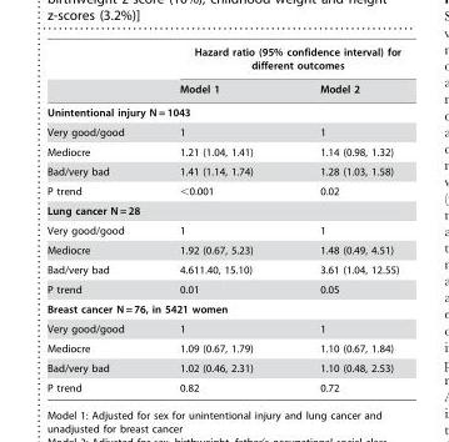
<table><thead><tr><td rowspan="2"></td><td colspan="2">Hazard ratio (95% confidence interval) for different outcomes</td></tr><tr><td>Model 1</td><td>Model 2</td></tr></thead><tbody><tr><td colspan="3">Unintentional injury N = 1043</td></tr><tr><td>Very good/good</td><td>1</td><td>1</td></tr><tr><td>Mediocre</td><td>1.21 (1.04, 1.41)</td><td>1.14 (0.98, 1.32)</td></tr><tr><td>Bad/very bad</td><td>1.41 (1.14, 1.74)</td><td>1.28 (1.03, 1.58)</td></tr><tr><td>P trend</td><td>&lt;0.001</td><td>0.02</td></tr><tr><td colspan="3">Lung cancer N = 28</td></tr><tr><td>Very good/good</td><td>1</td><td>1</td></tr><tr><td>Mediocre</td><td>1.92 (0.67, 5.23)</td><td>1.48 (0.49, 4.51)</td></tr><tr><td>Bad/very bad</td><td>4.611.40, 15.10)</td><td>3.61 (1.04, 12.55)</td></tr><tr><td>P trend</td><td>0.01</td><td>0.05</td></tr><tr><td colspan="3">Breast cancer N = 76, in 5421 women</td></tr><tr><td>Very good/good</td><td>1</td><td>1</td></tr><tr><td>Mediocre</td><td>1.09 (0.67, 1.79)</td><td>1.10 (0.67, 1.84)</td></tr><tr><td>Bad/very bad</td><td>1.02 (0.46, 2.31)</td><td>1.10 (0.48, 2.53)</td></tr><tr><td>P trend</td><td>0.82</td><td>0.72</td></tr></tbody></table>